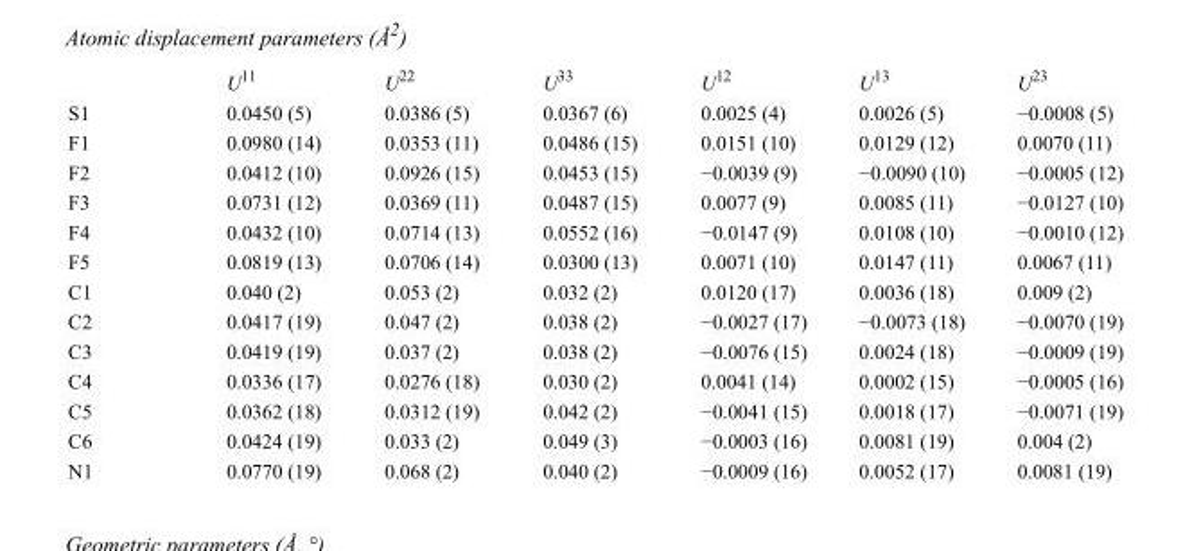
<table><thead><tr><td></td><td>U<sup>11</sup></td><td>U<sup>22</sup></td><td>U<sup>33</sup></td><td>U<sup>12</sup></td><td>U<sup>13</sup></td><td>U<sup>23</sup></td></tr></thead><tbody><tr><td>S1</td><td>0.0450 (5)</td><td>0.0386 (5)</td><td>0.0367 (6)</td><td>0.0025 (4)</td><td>0.0026 (5)</td><td>−0.0008 (5)</td></tr><tr><td>F1</td><td>0.0980 (14)</td><td>0.0353 (11)</td><td>0.0486 (15)</td><td>0.0151 (10)</td><td>0.0129 (12)</td><td>0.0070 (11)</td></tr><tr><td>F2</td><td>0.0412 (10)</td><td>0.0926 (15)</td><td>0.0453 (15)</td><td>−0.0039 (9)</td><td>−0.0090 (10)</td><td>−0.0005 (12)</td></tr><tr><td>F3</td><td>0.0731 (12)</td><td>0.0369 (11)</td><td>0.0487 (15)</td><td>0.0077 (9)</td><td>0.0085 (11)</td><td>−0.0127 (10)</td></tr><tr><td>F4</td><td>0.0432 (10)</td><td>0.0714 (13)</td><td>0.0552 (16)</td><td>−0.0147 (9)</td><td>0.0108 (10)</td><td>−0.0010 (12)</td></tr><tr><td>F5</td><td>0.0819 (13)</td><td>0.0706 (14)</td><td>0.0300 (13)</td><td>0.0071 (10)</td><td>0.0147 (11)</td><td>0.0067 (11)</td></tr><tr><td>C1</td><td>0.040 (2)</td><td>0.053 (2)</td><td>0.032 (2)</td><td>0.0120 (17)</td><td>0.0036 (18)</td><td>0.009 (2)</td></tr><tr><td>C2</td><td>0.0417 (19)</td><td>0.047 (2)</td><td>0.038 (2)</td><td>−0.0027 (17)</td><td>−0.0073 (18)</td><td>−0.0070 (19)</td></tr><tr><td>C3</td><td>0.0419 (19)</td><td>0.037 (2)</td><td>0.038 (2)</td><td>−0.0076 (15)</td><td>0.0024 (18)</td><td>−0.0009 (19)</td></tr><tr><td>C4</td><td>0.0336 (17)</td><td>0.0276 (18)</td><td>0.030 (2)</td><td>0.0041 (14)</td><td>0.0002 (15)</td><td>−0.0005 (16)</td></tr><tr><td>C5</td><td>0.0362 (18)</td><td>0.0312 (19)</td><td>0.042 (2)</td><td>−0.0041 (15)</td><td>0.0018 (17)</td><td>−0.0071 (19)</td></tr><tr><td>C6</td><td>0.0424 (19)</td><td>0.033 (2)</td><td>0.049 (3)</td><td>−0.0003 (16)</td><td>0.0081 (19)</td><td>0.004 (2)</td></tr><tr><td>N1</td><td>0.0770 (19)</td><td>0.068 (2)</td><td>0.040 (2)</td><td>−0.0009 (16)</td><td>0.0052 (17)</td><td>0.0081 (19)</td></tr></tbody></table>